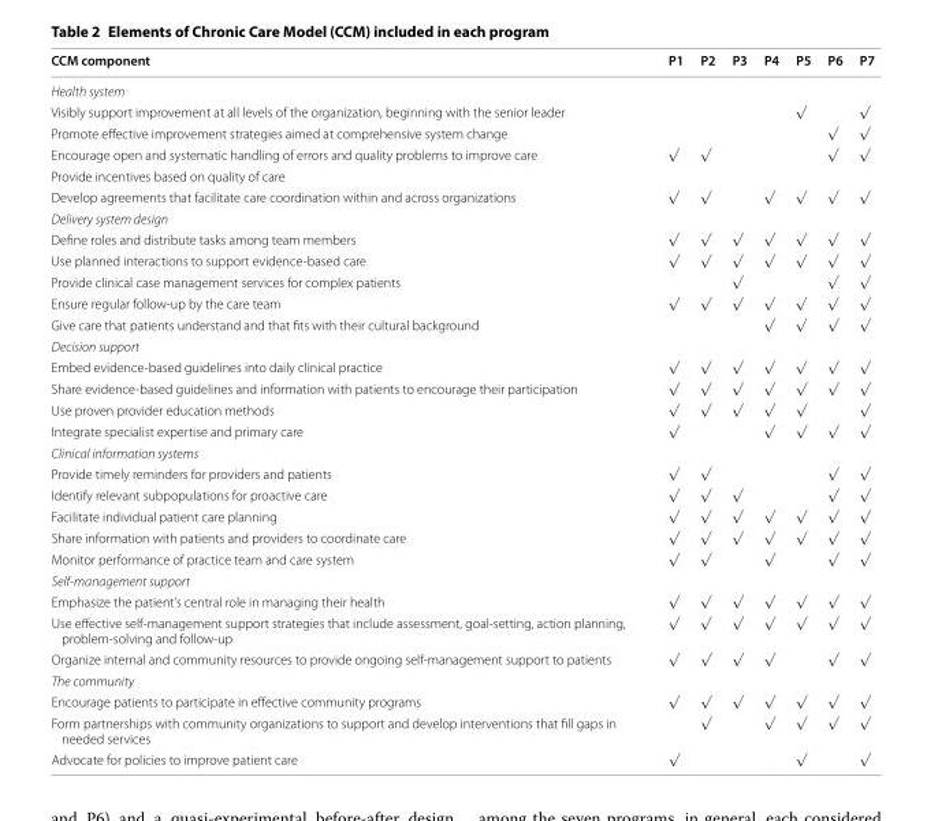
<table><thead><tr><td>CCM component</td><td>P1</td><td>P2</td><td>P3</td><td>P4</td><td>P5</td><td>P6</td><td>P7</td></tr></thead><tbody><tr><td colspan="8">Health system</td></tr><tr><td>Visibly support improvement at all levels of the organization, beginning with the senior leader</td><td></td><td></td><td></td><td></td><td>√</td><td></td><td>√</td></tr><tr><td>Promote effective improvement strategies aimed at comprehensive system change</td><td></td><td></td><td></td><td></td><td></td><td>√</td><td>√</td></tr><tr><td>Encourage open and systematic handling of errors and quality problems to improve care</td><td>√</td><td>√</td><td></td><td></td><td></td><td>√</td><td>√</td></tr><tr><td colspan="8">Provide incentives based on quality of care</td></tr><tr><td>Develop agreements that facilitate care coordination within and across organizations</td><td>√</td><td>√</td><td></td><td>√</td><td>√</td><td>√</td><td>√</td></tr><tr><td colspan="8">Delivery system design</td></tr><tr><td>Define roles and distribute tasks among team members</td><td>√</td><td>√</td><td>√</td><td>√</td><td>√</td><td>√</td><td>√</td></tr><tr><td>Use planned interactions to support evidence‑based care</td><td>√</td><td>√</td><td>√</td><td>√</td><td>√</td><td>√</td><td>√</td></tr><tr><td>Provide clinical case management services for complex patients</td><td></td><td></td><td>√</td><td></td><td></td><td>√</td><td>√</td></tr><tr><td>Ensure regular follow‑up by the care team</td><td>√</td><td>√</td><td>√</td><td>√</td><td>√</td><td>√</td><td>√</td></tr><tr><td>Give care that patients understand and that fits with their cultural background</td><td></td><td></td><td></td><td>√</td><td>√</td><td>√</td><td>√</td></tr><tr><td colspan="8">Decision support</td></tr><tr><td>Embed evidence‑based guidelines into daily clinical practice</td><td>√</td><td>√</td><td>√</td><td>√</td><td>√</td><td>√</td><td>√</td></tr><tr><td>Share evidence‑based guidelines and information with patients to encourage their participation</td><td>√</td><td>√</td><td>√</td><td>√</td><td>√</td><td>√</td><td>√</td></tr><tr><td>Use proven provider education methods</td><td>√</td><td>√</td><td>√</td><td>√</td><td>√</td><td></td><td>√</td></tr><tr><td>Integrate specialist expertise and primary care</td><td>√</td><td></td><td></td><td>√</td><td>√</td><td>√</td><td>√</td></tr><tr><td colspan="8">Clinical information systems</td></tr><tr><td>Provide timely reminders for providers and patients</td><td>√</td><td>√</td><td></td><td></td><td></td><td>√</td><td>√</td></tr><tr><td>Identify relevant subpopulations for proactive care</td><td>√</td><td>√</td><td>√</td><td></td><td></td><td>√</td><td>√</td></tr><tr><td>Facilitate individual patient care planning</td><td>√</td><td>√</td><td>√</td><td>√</td><td>√</td><td>√</td><td>√</td></tr><tr><td>Share information with patients and providers to coordinate care</td><td>√</td><td>√</td><td>√</td><td>√</td><td>√</td><td>√</td><td>√</td></tr><tr><td>Monitor performance of practice team and care system</td><td>√</td><td>√</td><td></td><td>√</td><td></td><td>√</td><td>√</td></tr><tr><td colspan="8">Self-management support</td></tr><tr><td>Emphasize the patient’s central role in managing their health</td><td>√</td><td>√</td><td>√</td><td>√</td><td>√</td><td>√</td><td>√</td></tr><tr><td>Use effective self‑management support strategies that include assessment, goal‑setting, action planning, problem‑solving and follow‑up</td><td>√</td><td>√</td><td>√</td><td>√</td><td>√</td><td>√</td><td>√</td></tr><tr><td>Organize internal and community resources to provide ongoing self‑management support to patients</td><td>√</td><td>√</td><td>√</td><td>√</td><td></td><td>√</td><td>√</td></tr><tr><td colspan="8">The community</td></tr><tr><td>Encourage patients to participate in effective community programs</td><td>√</td><td>√</td><td>√</td><td>√</td><td>√</td><td>√</td><td>√</td></tr><tr><td>Form partnerships with community organizations to support and develop interventions that fill gaps in needed services</td><td></td><td>√</td><td></td><td>√</td><td>√</td><td>√</td><td>√</td></tr><tr><td>Advocate for policies to improve patient care</td><td>√</td><td></td><td></td><td></td><td>√</td><td></td><td>√</td></tr></tbody></table>